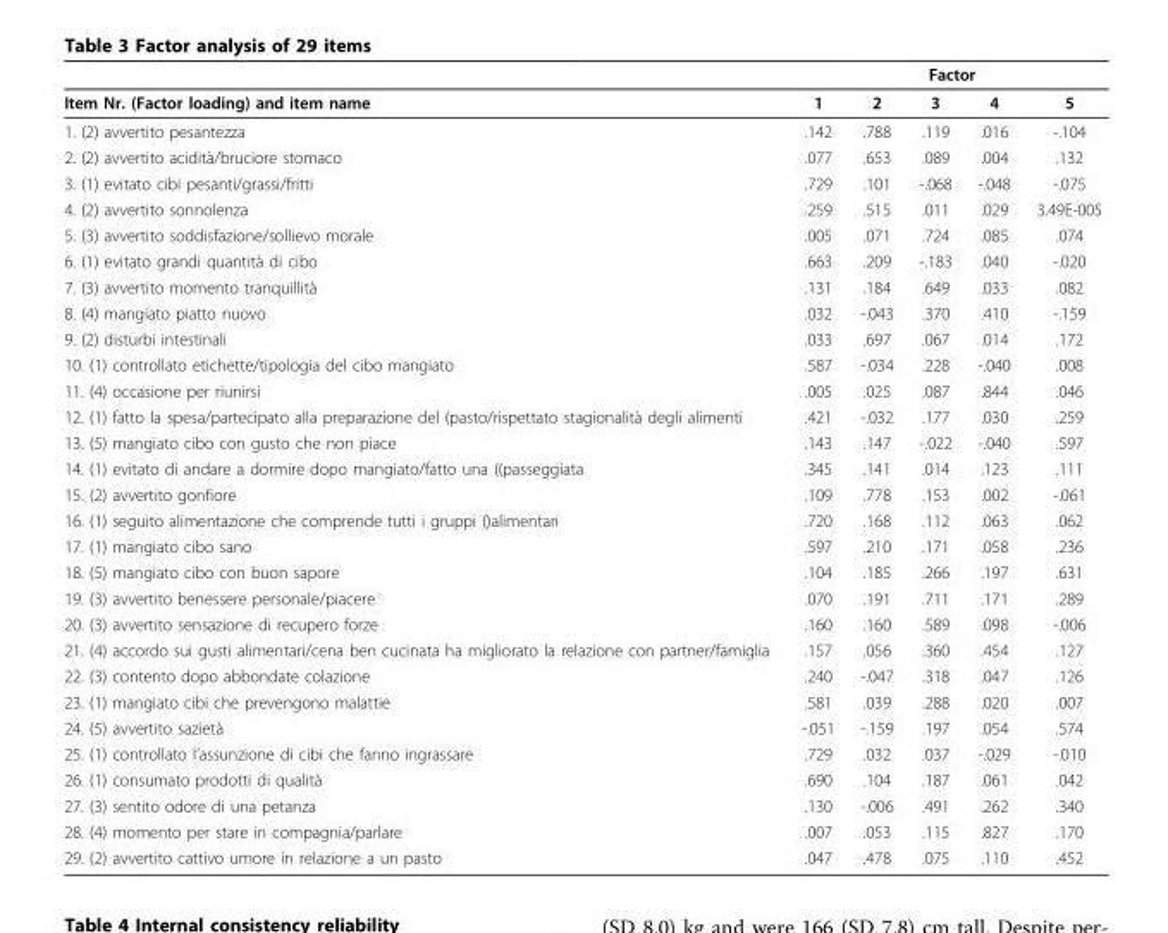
<table><thead><tr><td rowspan="2">Item Nr. (Factor loading) and item name</td><td colspan="5">Factor</td></tr><tr><td>1</td><td>2</td><td>3</td><td>4</td><td>5</td></tr></thead><tbody><tr><td>1. (2) avvertito pesantezza</td><td>.142</td><td>.788</td><td>.119</td><td>.016</td><td>-.104</td></tr><tr><td>2. (2) avvertito acidità/bruciore stomaco</td><td>.077</td><td>.653</td><td>.089</td><td>.004</td><td>.132</td></tr><tr><td>3. (1) evitato cibi pesanti/grassi/fritti</td><td>.729</td><td>.101</td><td>-.068</td><td>-.048</td><td>-.075</td></tr><tr><td>4. (2) avvertito sonnolenza</td><td>.259</td><td>.515</td><td>.011</td><td>.029</td><td>3.49E-005</td></tr><tr><td>5. (3) avvertito soddisfazione/sollievo morale</td><td>.005</td><td>.071</td><td>.724</td><td>.085</td><td>.074</td></tr><tr><td>6. (1) evitato grandi quantità di cibo</td><td>.663</td><td>.209</td><td>-.183</td><td>.040</td><td>-.020</td></tr><tr><td>7. (3) avvertito momento tranquillità</td><td>.131</td><td>.184</td><td>.649</td><td>.033</td><td>.082</td></tr><tr><td>8. (4) mangiato piatto nuovo</td><td>.032</td><td>-.043</td><td>.370</td><td>.410</td><td>-.159</td></tr><tr><td>9. (2) disturbi intestinali</td><td>.033</td><td>.697</td><td>.067</td><td>.014</td><td>.172</td></tr><tr><td>10. (1) controllato etichette/tipologia del cibo mangiato</td><td>.587</td><td>-.034</td><td>.228</td><td>-.040</td><td>.008</td></tr><tr><td>11. (4) occasione per riunirsi</td><td>.005</td><td>.025</td><td>.087</td><td>.844</td><td>.046</td></tr><tr><td>12. (1) fatto la spesa/partecipato alla preparazione del (pasto/rispettato stagionalità degli alimenti</td><td>.421</td><td>-.032</td><td>.177</td><td>.030</td><td>.259</td></tr><tr><td>13. (5) mangiato cibo con gusto che non piace</td><td>.143</td><td>.147</td><td>-.022</td><td>-.040</td><td>.597</td></tr><tr><td>14. (1) evitato di andare a dormire dopo mangiato/fatto una ((passeggiata</td><td>.345</td><td>.141</td><td>.014</td><td>.123</td><td>.111</td></tr><tr><td>15. (2) avvertito gonfiore</td><td>.109</td><td>.778</td><td>.153</td><td>.002</td><td>-.061</td></tr><tr><td>16. (1) seguito alimentazione che comprende tutti i gruppi ()alimentari</td><td>.720</td><td>.168</td><td>.112</td><td>.063</td><td>.062</td></tr><tr><td>17. (1) mangiato cibo sano</td><td>.597</td><td>.210</td><td>.171</td><td>.058</td><td>.236</td></tr><tr><td>18. (5) mangiato cibo con buon sapore</td><td>.104</td><td>.185</td><td>.266</td><td>.197</td><td>.631</td></tr><tr><td>19. (3) avvertito benessere personale/piacere</td><td>.070</td><td>.191</td><td>.711</td><td>.171</td><td>.289</td></tr><tr><td>20. (3) avvertito sensazione di recupero forze</td><td>.160</td><td>.160</td><td>.589</td><td>.098</td><td>-.006</td></tr><tr><td>21. (4) accordo sui gusti alimentari/cena ben cucinata ha migliorato la relazione con partner/famiglia</td><td>.157</td><td>.056</td><td>.360</td><td>.454</td><td>.127</td></tr><tr><td>22. (3) contento dopo abbondate colazione</td><td>.240</td><td>-.047</td><td>.318</td><td>.047</td><td>.126</td></tr><tr><td>23. (1) mangiato cibi che prevengono malattie</td><td>.581</td><td>.039</td><td>.288</td><td>.020</td><td>.007</td></tr><tr><td>24. (5) avvertito sazietà</td><td>-.051</td><td>-.159</td><td>.197</td><td>.054</td><td>.574</td></tr><tr><td>25. (1) controllato l’assunzione di cibi che fanno ingrassare</td><td>.729</td><td>.032</td><td>.037</td><td>-.029</td><td>-.010</td></tr><tr><td>26. (1) consumato prodotti di qualità</td><td>.690</td><td>.104</td><td>.187</td><td>.061</td><td>.042</td></tr><tr><td>27. (3) sentito odore di una petanza</td><td>.130</td><td>-.006</td><td>.491</td><td>.262</td><td>.340</td></tr><tr><td>28. (4) momento per stare in compagnia/parlare</td><td>.007</td><td>.053</td><td>.115</td><td>.827</td><td>.170</td></tr><tr><td>29. (2) avvertito cattivo umore in relazione a un pasto</td><td>.047</td><td>.478</td><td>.075</td><td>.110</td><td>.452</td></tr></tbody></table>